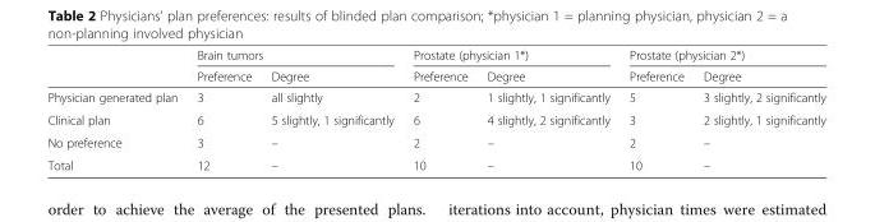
<table><thead><tr><td rowspan="2"></td><td colspan="2">Brain tumors</td><td colspan="2">Prostate (physician 1*)</td><td colspan="2">Prostate (physician 2*)</td></tr><tr><td>Preference</td><td>Degree</td><td>Preference</td><td>Degree</td><td>Preference</td><td>Degree</td></tr></thead><tbody><tr><td>Physician generated plan</td><td>3</td><td>all slightly</td><td>2</td><td>1 slightly, 1 significantly</td><td>5</td><td>3 slightly, 2 significantly</td></tr><tr><td>Clinical plan</td><td>6</td><td>5 slightly, 1 significantly</td><td>6</td><td>4 slightly, 2 significantly</td><td>3</td><td>2 slightly, 1 significantly</td></tr><tr><td>No preference</td><td>3</td><td>–</td><td>2</td><td>–</td><td>2</td><td>–</td></tr><tr><td>Total</td><td>12</td><td>–</td><td>10</td><td>–</td><td>10</td><td>–</td></tr></tbody></table>